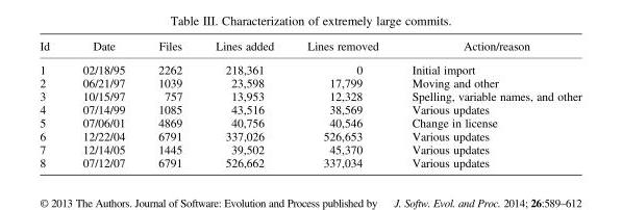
<table><thead><tr><td>Id</td><td>Date</td><td>Files</td><td>Lines added</td><td>Lines removed</td><td>Action/reason</td></tr></thead><tbody><tr><td>1</td><td>02/18/95</td><td>2262</td><td>218,361</td><td>0</td><td>Initial import</td></tr><tr><td>2</td><td>06/21/97</td><td>1039</td><td>23,598</td><td>17,799</td><td>Moving and other</td></tr><tr><td>3</td><td>10/15/97</td><td>757</td><td>13,953</td><td>12,328</td><td>Spelling, variable names, and other</td></tr><tr><td>4</td><td>07/14/99</td><td>1085</td><td>43,516</td><td>38,569</td><td>Various updates</td></tr><tr><td>5</td><td>07/06/01</td><td>4869</td><td>40,756</td><td>40,546</td><td>Change in license</td></tr><tr><td>6</td><td>12/22/04</td><td>6791</td><td>337,026</td><td>526,653</td><td>Various updates</td></tr><tr><td>7</td><td>12/14/05</td><td>1445</td><td>39,502</td><td>45,370</td><td>Various updates</td></tr><tr><td>8</td><td>07/12/07</td><td>6791</td><td>526,662</td><td>337,034</td><td>Various updates</td></tr></tbody></table>